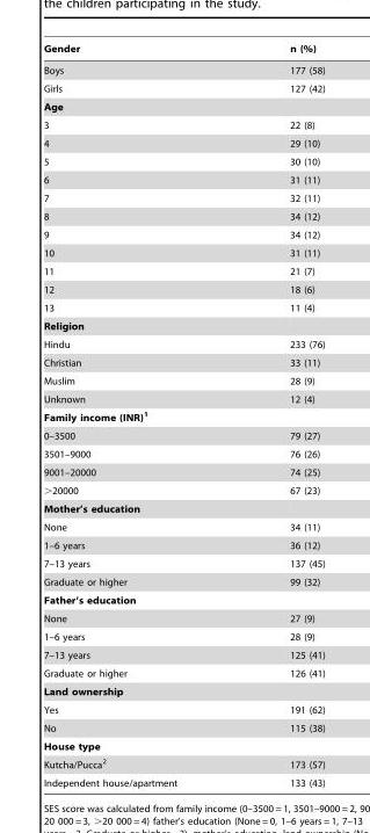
<table><thead><tr><td>Gender</td><td>n (%)</td></tr></thead><tbody><tr><td>Boys</td><td>177 (58)</td></tr><tr><td>Girls</td><td>127 (42)</td></tr><tr><td colspan="2">Age</td></tr><tr><td>3</td><td>22 (8)</td></tr><tr><td>4</td><td>29 (10)</td></tr><tr><td>5</td><td>30 (10)</td></tr><tr><td>6</td><td>31 (11)</td></tr><tr><td>7</td><td>32 (11)</td></tr><tr><td>8</td><td>34 (12)</td></tr><tr><td>9</td><td>34 (12)</td></tr><tr><td>10</td><td>31 (11)</td></tr><tr><td>11</td><td>21 (7)</td></tr><tr><td>12</td><td>18 (6)</td></tr><tr><td>13</td><td>11 (4)</td></tr><tr><td colspan="2">Religion</td></tr><tr><td>Hindu</td><td>233 (76)</td></tr><tr><td>Christian</td><td>33 (11)</td></tr><tr><td>Muslim</td><td>28 (9)</td></tr><tr><td>Unknown</td><td>12 (4)</td></tr><tr><td colspan="2">Family income (INR)1</td></tr><tr><td>0–3500</td><td>79 (27)</td></tr><tr><td>3501–9000</td><td>76 (26)</td></tr><tr><td>9001–20000</td><td>74 (25)</td></tr><tr><td>&gt;20000</td><td>67 (23)</td></tr><tr><td colspan="2">Mother’s education</td></tr><tr><td>None</td><td>34 (11)</td></tr><tr><td>1–6 years</td><td>36 (12)</td></tr><tr><td>7–13 years</td><td>137 (45)</td></tr><tr><td>Graduate or higher</td><td>99 (32)</td></tr><tr><td colspan="2">Father’s education</td></tr><tr><td>None</td><td>27 (9)</td></tr><tr><td>1–6 years</td><td>28 (9)</td></tr><tr><td>7–13 years</td><td>125 (41)</td></tr><tr><td>Graduate or higher</td><td>126 (41)</td></tr><tr><td colspan="2">Land ownership</td></tr><tr><td>Yes</td><td>191 (62)</td></tr><tr><td>No</td><td>115 (38)</td></tr><tr><td colspan="2">House type</td></tr><tr><td>Kutcha/Pucca<sup>2</sup></td><td>173 (57)</td></tr><tr><td>Independent house/apartment</td><td>133 (43)</td></tr></tbody></table>